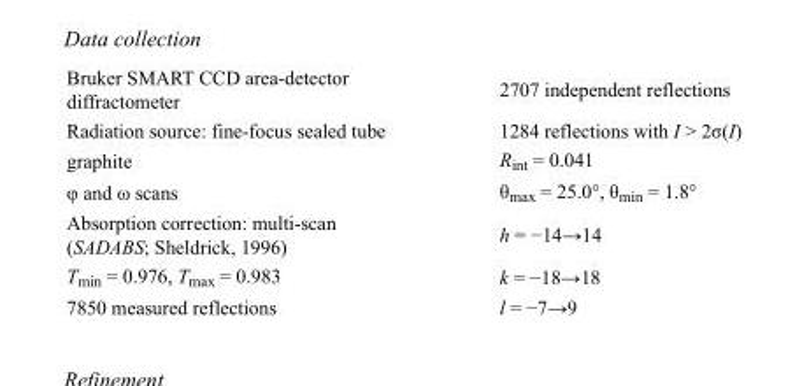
<table><tbody><tr><td>Bruker SMART CCD area-detector diffractometer</td><td>2707 independent reflections</td></tr><tr><td>Radiation source: fine-focus sealed tube</td><td>1284 reflections with I &gt; 2σ(I)</td></tr><tr><td>graphite</td><td>R<sub>int</sub> = 0.041</td></tr><tr><td>φ and ω scans</td><td>θ<sub>max</sub> = 25.0°, θ<sub>min</sub> = 1.8°</td></tr><tr><td>Absorption correction: multi-scan (SADABS; Sheldrick, 1996)</td><td>h = −14→14</td></tr><tr><td>T<sub>min</sub> = 0.976, T<sub>max</sub> = 0.983</td><td>k = −18→18</td></tr><tr><td>7850 measured reflections</td><td>l = −7→9</td></tr></tbody></table>